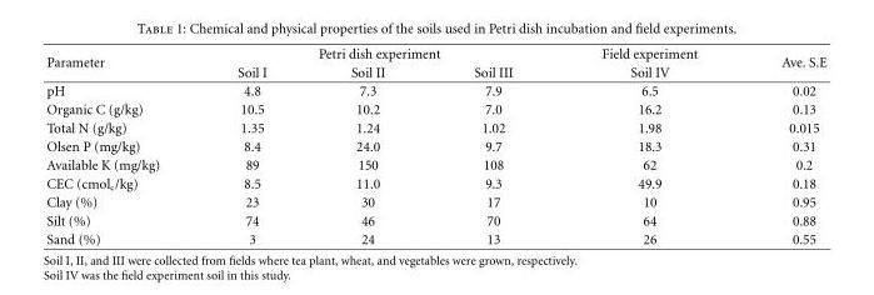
<table><thead><tr><td rowspan="2">Parameter</td><td colspan="3">Petri dish experiment</td><td rowspan="2">Field experiment Soil IV</td><td rowspan="2">Ave. S.E</td></tr><tr><td>Soil I</td><td>Soil II</td><td>Soil III</td></tr></thead><tbody><tr><td>pH</td><td>4.8</td><td>7.3</td><td>7.9</td><td>6.5</td><td>0.02</td></tr><tr><td>Organic C (g/kg)</td><td>10.5</td><td>10.2</td><td>7.0</td><td>16.2</td><td>0.13</td></tr><tr><td>Total N (g/kg)</td><td>1.35</td><td>1.24</td><td>1.02</td><td>1.98</td><td>0.015</td></tr><tr><td>Olsen P (mg/kg)</td><td>8.4</td><td>24.0</td><td>9.7</td><td>18.3</td><td>0.31</td></tr><tr><td>Available K (mg/kg)</td><td>89</td><td>150</td><td>108</td><td>62</td><td>0.2</td></tr><tr><td>CEC (cmol<sub>c</sub>/kg)</td><td>8.5</td><td>11.0</td><td>9.3</td><td>49.9</td><td>0.18</td></tr><tr><td>Clay (%)</td><td>23</td><td>30</td><td>17</td><td>10</td><td>0.95</td></tr><tr><td>Silt (%)</td><td>74</td><td>46</td><td>70</td><td>64</td><td>0.88</td></tr><tr><td>Sand (%)</td><td>3</td><td>24</td><td>13</td><td>26</td><td>0.55</td></tr></tbody></table>